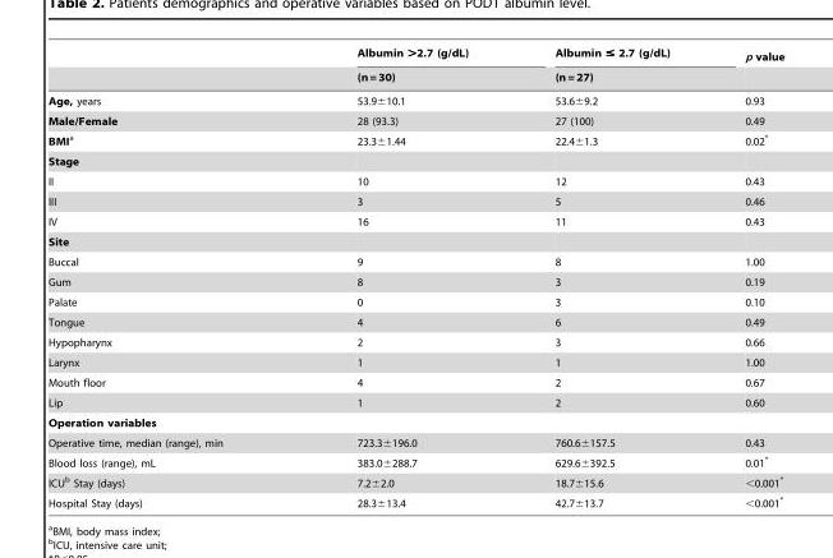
<table><thead><tr><td rowspan="2"></td><td rowspan="2">Albumin &gt;2.7 (g/dL) (n = 30)</td><td rowspan="2">Albumin ≤ 2.7 (g/dL) (n = 27)</td><td rowspan="2">p value</td></tr><tr></tr></thead><tbody><tr><td>Age, years</td><td>53.9±10.1</td><td>53.6±9.2</td><td>0.93</td></tr><tr><td>Male/Female</td><td>28 (93.3)</td><td>27 (100)</td><td>0.49</td></tr><tr><td>BMIa</td><td>23.3±1.44</td><td>22.4±1.3</td><td>0.02*</td></tr><tr><td colspan="4">Stage</td></tr><tr><td>II</td><td>10</td><td>12</td><td>0.43</td></tr><tr><td>III</td><td>3</td><td>5</td><td>0.46</td></tr><tr><td>IV</td><td>16</td><td>11</td><td>0.43</td></tr><tr><td colspan="4">Site</td></tr><tr><td>Buccal</td><td>9</td><td>8</td><td>1.00</td></tr><tr><td>Gum</td><td>8</td><td>3</td><td>0.19</td></tr><tr><td>Palate</td><td>0</td><td>3</td><td>0.10</td></tr><tr><td>Tongue</td><td>4</td><td>6</td><td>0.49</td></tr><tr><td>Hypopharynx</td><td>2</td><td>3</td><td>0.66</td></tr><tr><td>Larynx</td><td>1</td><td>1</td><td>1.00</td></tr><tr><td>Mouth floor</td><td>4</td><td>2</td><td>0.67</td></tr><tr><td>Lip</td><td>1</td><td>2</td><td>0.60</td></tr><tr><td colspan="4">Operation variables</td></tr><tr><td>Operative time, median (range), min</td><td>723.3±196.0</td><td>760.6±157.5</td><td>0.43</td></tr><tr><td>Blood loss (range), mL</td><td>383.0±288.7</td><td>629.6±392.5</td><td>0.01*</td></tr><tr><td>ICU<sup>b</sup> Stay (days)</td><td>7.2±2.0</td><td>18.7±15.6</td><td>&lt;0.001*</td></tr><tr><td>Hospital Stay (days)</td><td>28.3±13.4</td><td>42.7±13.7</td><td>&lt;0.001*</td></tr></tbody></table>